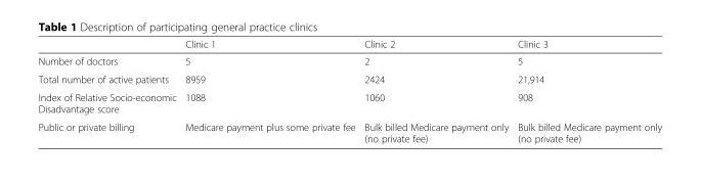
<table><thead><tr><td></td><td>Clinic 1</td><td>Clinic 2</td><td>Clinic 3</td></tr></thead><tbody><tr><td>Number of doctors</td><td>5</td><td>2</td><td>5</td></tr><tr><td>Total number of active patients</td><td>8959</td><td>2424</td><td>21,914</td></tr><tr><td>Index of Relative Socio-economic Disadvantage score</td><td>1088</td><td>1060</td><td>908</td></tr><tr><td>Public or private billing</td><td>Medicare payment plus some private fee</td><td>Bulk billed Medicare payment only (no private fee)</td><td>Bulk billed Medicare payment only (no private fee)</td></tr></tbody></table>